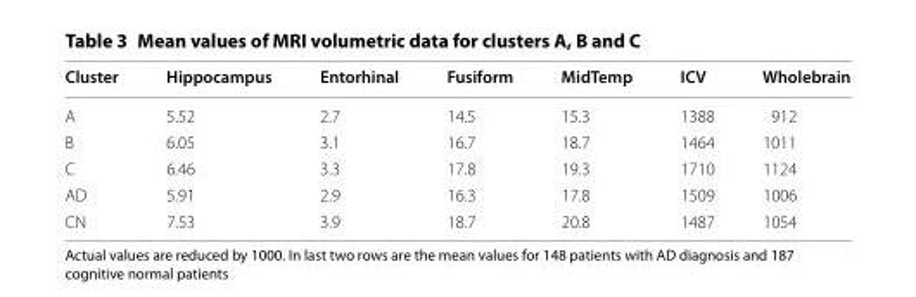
<table><thead><tr><td>Cluster</td><td>Hippocampus</td><td>Entorhinal</td><td>Fusiform</td><td>MidTemp</td><td>ICV</td><td>Wholebrain</td></tr></thead><tbody><tr><td>A</td><td>5.52</td><td>2.7</td><td>14.5</td><td>15.3</td><td>1388</td><td>912</td></tr><tr><td>B</td><td>6.05</td><td>3.1</td><td>16.7</td><td>18.7</td><td>1464</td><td>1011</td></tr><tr><td>C</td><td>6.46</td><td>3.3</td><td>17.8</td><td>19.3</td><td>1710</td><td>1124</td></tr><tr><td>AD</td><td>5.91</td><td>2.9</td><td>16.3</td><td>17.8</td><td>1509</td><td>1006</td></tr><tr><td>CN</td><td>7.53</td><td>3.9</td><td>18.7</td><td>20.8</td><td>1487</td><td>1054</td></tr></tbody></table>